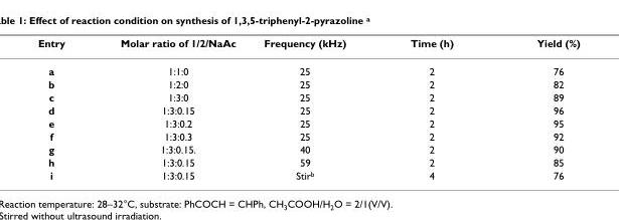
<table><thead><tr><td>Entry</td><td>Molar ratio of 1/2/NaAc</td><td>Frequency (kHz)</td><td>Time (h)</td><td>Yield (%)</td></tr></thead><tbody><tr><td>a</td><td>1:1:0</td><td>25</td><td>2</td><td>76</td></tr><tr><td>b</td><td>1:2:0</td><td>25</td><td>2</td><td>82</td></tr><tr><td>c</td><td>1:3:0</td><td>25</td><td>2</td><td>89</td></tr><tr><td>d</td><td>1:3:0.15</td><td>25</td><td>2</td><td>96</td></tr><tr><td>e</td><td>1:3:0.2</td><td>25</td><td>2</td><td>95</td></tr><tr><td>f</td><td>1:3:0.3</td><td>25</td><td>2</td><td>92</td></tr><tr><td>g</td><td>1:3:0.15.</td><td>40</td><td>2</td><td>90</td></tr><tr><td>h</td><td>1:3:0.15</td><td>59</td><td>2</td><td>85</td></tr><tr><td>i</td><td>1:3:0.15</td><td>Stir<sup>b</sup></td><td>4</td><td>76</td></tr></tbody></table>